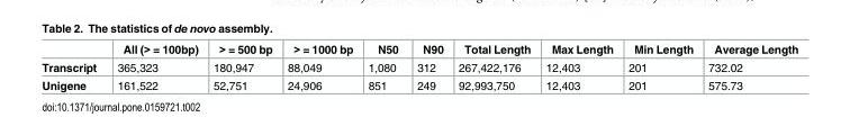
<table><thead><tr><td></td><td>All (&gt; = 100bp)</td><td>&gt; = 500 bp</td><td>&gt; = 1000 bp</td><td>N50</td><td>N90</td><td>Total Length</td><td>Max Length</td><td>Min Length</td><td>Average Length</td></tr></thead><tbody><tr><td>Transcript</td><td>365,323</td><td>180,947</td><td>88,049</td><td>1,080</td><td>312</td><td>267,422,176</td><td>12,403</td><td>201</td><td>732.02</td></tr><tr><td>Unigene</td><td>161,522</td><td>52,751</td><td>24,906</td><td>851</td><td>249</td><td>92,993,750</td><td>12,403</td><td>201</td><td>575.73</td></tr></tbody></table>